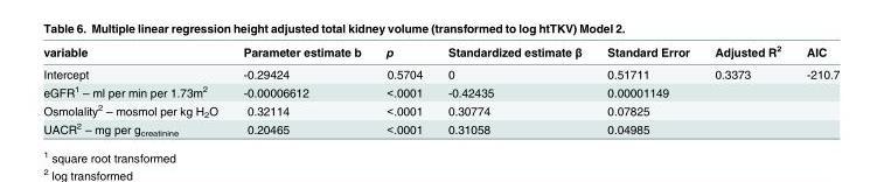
<table><thead><tr><td>variable</td><td>Parameter estimate b</td><td>p</td><td>Standardized estimate β</td><td>Standard Error</td><td>Adjusted R<sup>2</sup></td><td>AIC</td></tr></thead><tbody><tr><td>Intercept</td><td>-0.29424</td><td>0.5704</td><td>0</td><td>0.51711</td><td>0.3373</td><td>-210.7</td></tr><tr><td>eGFR<sup>1</sup> – ml per min per 1.73m<sup>2</sup></td><td>-0.00006612</td><td>&lt;.0001</td><td>-0.42435</td><td>0.00001149</td><td></td><td></td></tr><tr><td>Osmolality<sup>2</sup> – mosmol per kg H<sub>2</sub>O</td><td>0.32114</td><td>&lt;.0001</td><td>0.30774</td><td>0.07825</td><td></td><td></td></tr><tr><td>UACR<sup>2</sup> – mg per g<sub>creatinine</sub></td><td>0.20465</td><td>&lt;.0001</td><td>0.31058</td><td>0.04985</td><td></td><td></td></tr></tbody></table>